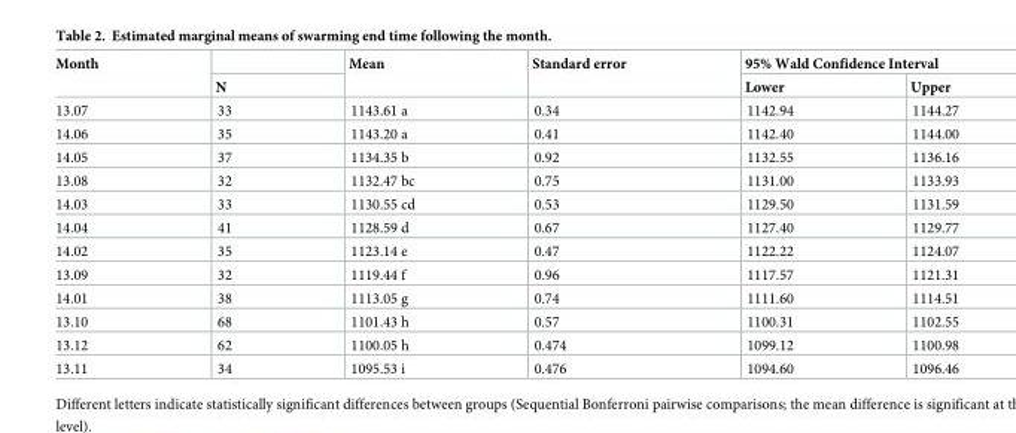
<table><thead><tr><td rowspan="2">Month</td><td rowspan="2">N</td><td rowspan="2">Mean</td><td rowspan="2">Standard error</td><td colspan="2">95% Wald Confidence Interval</td></tr><tr><td>Lower</td><td>Upper</td></tr></thead><tbody><tr><td>13.07</td><td>33</td><td>1143.61 a</td><td>0.34</td><td>1142.94</td><td>1144.27</td></tr><tr><td>14.06</td><td>35</td><td>1143.20 a</td><td>0.41</td><td>1142.40</td><td>1144.00</td></tr><tr><td>14.05</td><td>37</td><td>1134.35 b</td><td>0.92</td><td>1132.55</td><td>1136.16</td></tr><tr><td>13.08</td><td>32</td><td>1132.47 bc</td><td>0.75</td><td>1131.00</td><td>1133.93</td></tr><tr><td>14.03</td><td>33</td><td>1130.55 cd</td><td>0.53</td><td>1129.50</td><td>1131.59</td></tr><tr><td>14.04</td><td>41</td><td>1128.59 d</td><td>0.67</td><td>1127.40</td><td>1129.77</td></tr><tr><td>14.02</td><td>35</td><td>1123.14 e</td><td>0.47</td><td>1122.22</td><td>1124.07</td></tr><tr><td>13.09</td><td>32</td><td>1119.44 f</td><td>0.96</td><td>1117.57</td><td>1121.31</td></tr><tr><td>14.01</td><td>38</td><td>1113.05 g</td><td>0.74</td><td>1111.60</td><td>1114.51</td></tr><tr><td>13.10</td><td>68</td><td>1101.43 h</td><td>0.57</td><td>1100.31</td><td>1102.55</td></tr><tr><td>13.12</td><td>62</td><td>1100.05 h</td><td>0.474</td><td>1099.12</td><td>1100.98</td></tr><tr><td>13.11</td><td>34</td><td>1095.53 i</td><td>0.476</td><td>1094.60</td><td>1096.46</td></tr></tbody></table>